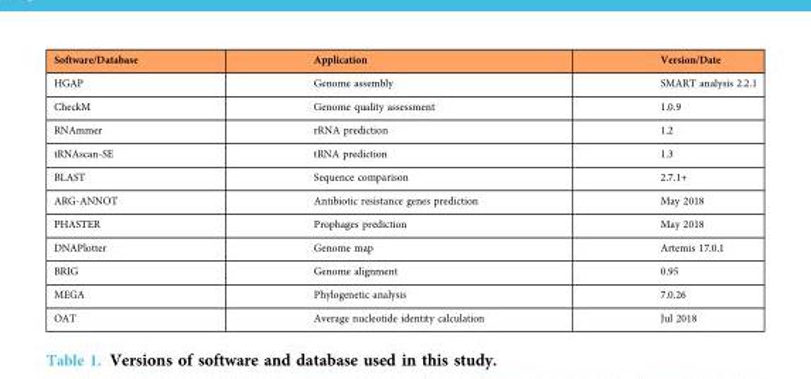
<table><thead><tr><td>Software/Database</td><td>Application</td><td>Version/Date</td></tr></thead><tbody><tr><td>HGAP</td><td>Genome assembly</td><td>SMART analysis 2.2.1</td></tr><tr><td>CheckM</td><td>Genome quality assessment</td><td>1.0.9</td></tr><tr><td>RNAmmer</td><td>rRNA prediction</td><td>1.2</td></tr><tr><td>tRNAscan-SE</td><td>tRNA prediction</td><td>1.3</td></tr><tr><td>BLAST</td><td>Sequence comparison</td><td>2.7.1+</td></tr><tr><td>ARG-ANNOT</td><td>Antibiotic resistance genes prediction</td><td>May 2018</td></tr><tr><td>PHASTER</td><td>Prophages prediction</td><td>May 2018</td></tr><tr><td>DNAPlotter</td><td>Genome map</td><td>Artemis 17.0.1</td></tr><tr><td>BRIG</td><td>Genome alignment</td><td>0.95</td></tr><tr><td>MEGA</td><td>Phylogenetic analysis</td><td>7.0.26</td></tr><tr><td>OAT</td><td>Average nucleotide identity calculation</td><td>Jul 2018</td></tr></tbody></table>